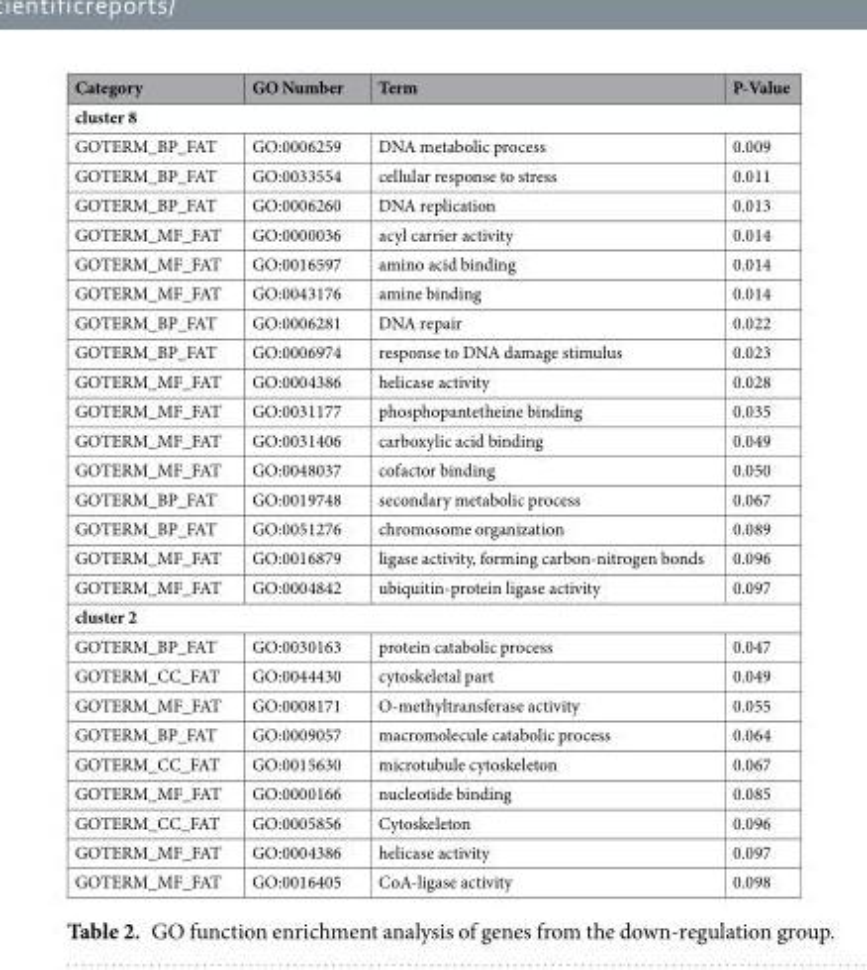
<table><thead><tr><td>Category</td><td>GO Number</td><td>Term</td><td>P-Value</td></tr></thead><tbody><tr><td colspan="4">cluster 8</td></tr><tr><td>GOTERM_BP_FAT</td><td>GO:0006259</td><td>DNA metabolic process</td><td>0.009</td></tr><tr><td>GOTERM_BP_FAT</td><td>GO:0033554</td><td>cellular response to stress</td><td>0.011</td></tr><tr><td>GOTERM_BP_FAT</td><td>GO:0006260</td><td>DNA replication</td><td>0.013</td></tr><tr><td>GOTERM_MF_FAT</td><td>GO:0000036</td><td>acyl carrier activity</td><td>0.014</td></tr><tr><td>GOTERM_MF_FAT</td><td>GO:0016597</td><td>amino acid binding</td><td>0.014</td></tr><tr><td>GOTERM_MF_FAT</td><td>GO:0043176</td><td>amine binding</td><td>0.014</td></tr><tr><td>GOTERM_BP_FAT</td><td>GO:0006281</td><td>DNA repair</td><td>0.022</td></tr><tr><td>GOTERM_BP_FAT</td><td>GO:0006974</td><td>response to DNA damage stimulus</td><td>0.023</td></tr><tr><td>GOTERM_MF_FAT</td><td>GO:0004386</td><td>helicase activity</td><td>0.028</td></tr><tr><td>GOTERM_MF_FAT</td><td>GO:0031177</td><td>phosphopantetheine binding</td><td>0.035</td></tr><tr><td>GOTERM_MF_FAT</td><td>GO:0031406</td><td>carboxylic acid binding</td><td>0.049</td></tr><tr><td>GOTERM_MF_FAT</td><td>GO:0048037</td><td>cofactor binding</td><td>0.050</td></tr><tr><td>GOTERM_BP_FAT</td><td>GO:0019748</td><td>secondary metabolic process</td><td>0.067</td></tr><tr><td>GOTERM_BP_FAT</td><td>GO:0051276</td><td>chromosome organization</td><td>0.089</td></tr><tr><td>GOTERM_MF_FAT</td><td>GO:0016879</td><td>ligase activity, forming carbon-nitrogen bonds</td><td>0.096</td></tr><tr><td>GOTERM_MF_FAT</td><td>GO:0004842</td><td>ubiquitin-protein ligase activity</td><td>0.097</td></tr><tr><td colspan="4">cluster 2</td></tr><tr><td>GOTERM_BP_FAT</td><td>GO:0030163</td><td>protein catabolic process</td><td>0.047</td></tr><tr><td>GOTERM_CC_FAT</td><td>GO:0044430</td><td>cytoskeletal part</td><td>0.049</td></tr><tr><td>GOTERM_MF_FAT</td><td>GO:0008171</td><td>O-methyltransferase activity</td><td>0.055</td></tr><tr><td>GOTERM_BP_FAT</td><td>GO:0009057</td><td>macromolecule catabolic process</td><td>0.064</td></tr><tr><td>GOTERM_CC_FAT</td><td>GO:0015630</td><td>microtubule cytoskeleton</td><td>0.067</td></tr><tr><td>GOTERM_MF_FAT</td><td>GO:0000166</td><td>nucleotide binding</td><td>0.085</td></tr><tr><td>GOTERM_CC_FAT</td><td>GO:0005856</td><td>Cytoskeleton</td><td>0.096</td></tr><tr><td>GOTERM_MF_FAT</td><td>GO:0004386</td><td>helicase activity</td><td>0.097</td></tr><tr><td>GOTERM_MF_FAT</td><td>GO:0016405</td><td>CoA-ligase activity</td><td>0.098</td></tr></tbody></table>